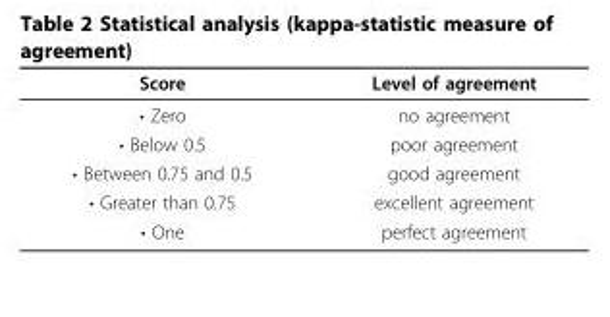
<table><thead><tr><td>Score</td><td>Level of agreement</td></tr></thead><tbody><tr><td>• Zero</td><td>no agreement</td></tr><tr><td>• Below 0.5</td><td>poor agreement</td></tr><tr><td>• Between 0.75 and 0.5</td><td>good agreement</td></tr><tr><td>• Greater than 0.75</td><td>excellent agreement</td></tr><tr><td>• One</td><td>perfect agreement</td></tr></tbody></table>